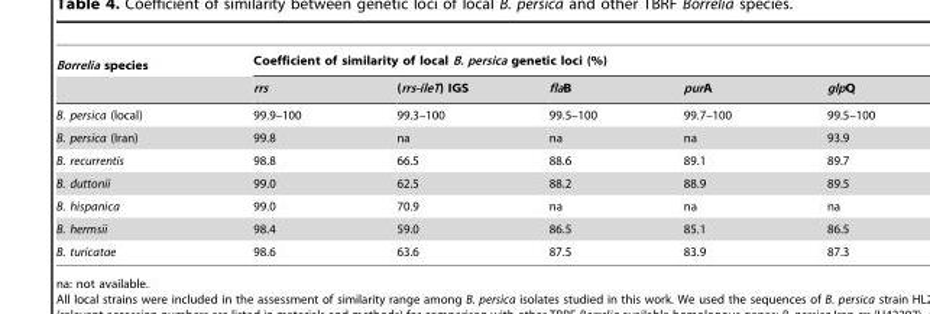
<table><thead><tr><td rowspan="2">Borrelia species</td><td colspan="5">Coefficient of similarity of local B. persica genetic loci (%)</td></tr><tr><td>rrs</td><td>(rrs-ileT) IGS</td><td>flaB</td><td>purA</td><td>glpQ</td></tr></thead><tbody><tr><td>B. persica (local)</td><td>99.9–100</td><td>99.3–100</td><td>99.5–100</td><td>99.7–100</td><td>99.5–100</td></tr><tr><td>B. persica (Iran)</td><td>99.8</td><td>na</td><td>na</td><td>na</td><td>93.9</td></tr><tr><td>B. recurrentis</td><td>98.8</td><td>66.5</td><td>88.6</td><td>89.1</td><td>89.7</td></tr><tr><td>B. duttonii</td><td>99.0</td><td>62.5</td><td>88.2</td><td>88.9</td><td>89.5</td></tr><tr><td>B. hispanica</td><td>99.0</td><td>70.9</td><td>na</td><td>na</td><td>na</td></tr><tr><td>B. hermsii</td><td>98.4</td><td>59.0</td><td>86.5</td><td>85.1</td><td>86.5</td></tr><tr><td>B. turicatae</td><td>98.6</td><td>63.6</td><td>87.5</td><td>83.9</td><td>87.3</td></tr></tbody></table>